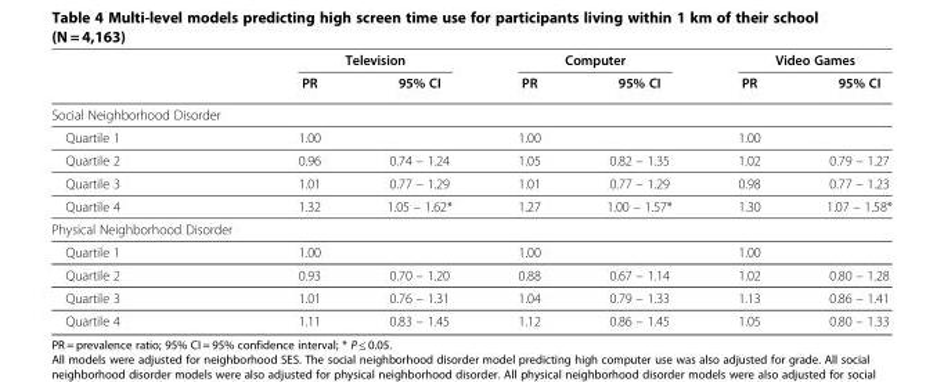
<table><thead><tr><td rowspan="2"></td><td colspan="2">Television</td><td colspan="2">Computer</td><td colspan="2">Video Games</td></tr><tr><td>PR</td><td>95% CI</td><td>PR</td><td>95% CI</td><td>PR</td><td>95% CI</td></tr></thead><tbody><tr><td colspan="7">Social Neighborhood Disorder</td></tr><tr><td>Quartile 1</td><td>1.00</td><td></td><td>1.00</td><td></td><td>1.00</td><td></td></tr><tr><td>Quartile 2</td><td>0.96</td><td>0.74 – 1.24</td><td>1.05</td><td>0.82 – 1.35</td><td>1.02</td><td>0.79 – 1.27</td></tr><tr><td>Quartile 3</td><td>1.01</td><td>0.77 – 1.29</td><td>1.01</td><td>0.77 – 1.29</td><td>0.98</td><td>0.77 – 1.23</td></tr><tr><td>Quartile 4</td><td>1.32</td><td>1.05 – 1.62*</td><td>1.27</td><td>1.00 – 1.57*</td><td>1.30</td><td>1.07 – 1.58*</td></tr><tr><td colspan="7">Physical Neighborhood Disorder</td></tr><tr><td>Quartile 1</td><td>1.00</td><td></td><td>1.00</td><td></td><td>1.00</td><td></td></tr><tr><td>Quartile 2</td><td>0.93</td><td>0.70 – 1.20</td><td>0.88</td><td>0.67 – 1.14</td><td>1.02</td><td>0.80 – 1.28</td></tr><tr><td>Quartile 3</td><td>1.01</td><td>0.76 – 1.31</td><td>1.04</td><td>0.79 – 1.33</td><td>1.13</td><td>0.86 – 1.41</td></tr><tr><td>Quartile 4</td><td>1.11</td><td>0.83 – 1.45</td><td>1.12</td><td>0.86 – 1.45</td><td>1.05</td><td>0.80 – 1.33</td></tr></tbody></table>